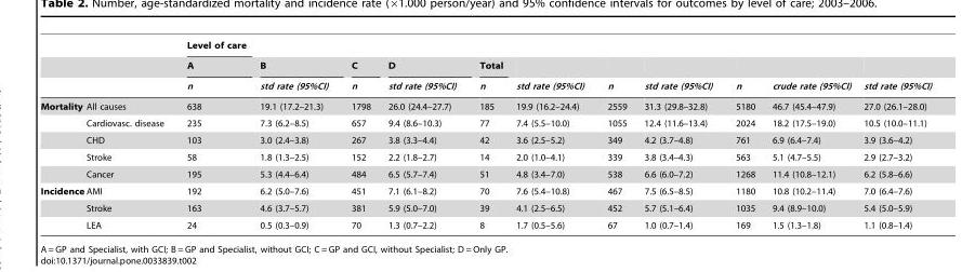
<table><thead><tr><td rowspan="3"></td><td rowspan="3"></td><td rowspan="3">Level of care A n</td><td rowspan="3">B std rate (95%CI)</td><td rowspan="3">C n</td><td rowspan="3">D std rate (95%CI)</td><td rowspan="3">Total n</td><td rowspan="3">std rate (95%CI)</td><td rowspan="3">n</td><td rowspan="3">std rate (95%CI)</td><td rowspan="3">n</td><td rowspan="3">crude rate (95%CI)</td><td rowspan="3">std rate (95%CI)</td></tr><tr></tr><tr></tr></thead><tbody><tr><td rowspan="5">Mortality</td><td>All causes</td><td>638</td><td>19.1 (17.2–21.3)</td><td>1798</td><td>26.0 (24.4–27.7)</td><td>185</td><td>19.9 (16.2–24.4)</td><td>2559</td><td>31.3 (29.8–32.8)</td><td>5180</td><td>46.7 (45.4–47.9)</td><td>27.0 (26.1–28.0)</td></tr><tr><td>Cardiovasc. disease</td><td>235</td><td>7.3 (6.2–8.5)</td><td>657</td><td>9.4 (8.6–10.3)</td><td>77</td><td>7.4 (5.5–10.0)</td><td>1055</td><td>12.4 (11.6–13.4)</td><td>2024</td><td>18.2 (17.5–19.0)</td><td>10.5 (10.0–11.1)</td></tr><tr><td>CHD</td><td>103</td><td>3.0 (2.4–3.8)</td><td>267</td><td>3.8 (3.3–4.4)</td><td>42</td><td>3.6 (2.5–5.2)</td><td>349</td><td>4.2 (3.7–4.8)</td><td>761</td><td>6.9 (6.4–7.4)</td><td>3.9 (3.6–4.2)</td></tr><tr><td>Stroke</td><td>58</td><td>1.8 (1.3–2.5)</td><td>152</td><td>2.2 (1.8–2.7)</td><td>14</td><td>2.0 (1.0–4.1)</td><td>339</td><td>3.8 (3.4–4.3)</td><td>563</td><td>5.1 (4.7–5.5)</td><td>2.9 (2.7–3.2)</td></tr><tr><td>Cancer</td><td>195</td><td>5.3 (4.4–6.4)</td><td>484</td><td>6.5 (5.7–7.4)</td><td>51</td><td>4.8 (3.4–7.0)</td><td>538</td><td>6.6 (6.0–7.2)</td><td>1268</td><td>11.4 (10.8–12.1)</td><td>6.2 (5.8–6.6)</td></tr><tr><td rowspan="3">Incidence</td><td>AMI</td><td>192</td><td>6.2 (5.0–7.6)</td><td>451</td><td>7.1 (6.1–8.2)</td><td>70</td><td>7.6 (5.4–10.8)</td><td>467</td><td>7.5 (6.5–8.5)</td><td>1180</td><td>10.8 (10.2–11.4)</td><td>7.0 (6.4–7.6)</td></tr><tr><td>Stroke</td><td>163</td><td>4.6 (3.7–5.7)</td><td>381</td><td>5.9 (5.0–7.0)</td><td>39</td><td>4.1 (2.5–6.5)</td><td>452</td><td>5.7 (5.1–6.4)</td><td>1035</td><td>9.4 (8.9–10.0)</td><td>5.4 (5.0–5.9)</td></tr><tr><td>LEA</td><td>24</td><td>0.5 (0.3–0.9)</td><td>70</td><td>1.3 (0.7–2.2)</td><td>8</td><td>1.7 (0.5–5.6)</td><td>67</td><td>1.0 (0.7–1.4)</td><td>169</td><td>1.5 (1.3–1.8)</td><td>1.1 (0.8–1.4)</td></tr></tbody></table>